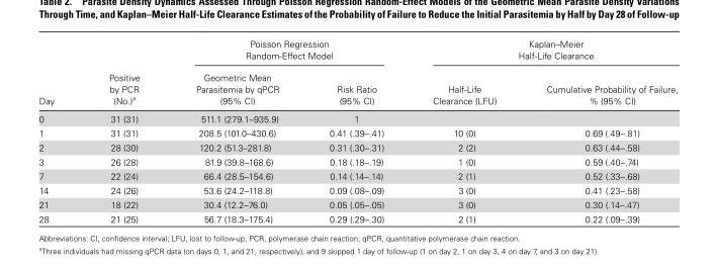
<table><thead><tr><td rowspan="2">Day</td><td rowspan="2">Positive by PCR (No.)<sup>a</sup></td><td colspan="2">Poisson Regression Random-Effect Model</td><td colspan="2">Kaplan–Meier Half-Life Clearance</td></tr><tr><td>Geometric Mean Parasitemia by qPCR (95% CI)</td><td>Risk Ratio (95% CI)</td><td>Half-Life Clearance (LFU)</td><td>Cumulative Probability of Failure, % (95% CI)</td></tr></thead><tbody><tr><td>0</td><td>31 (31)</td><td>511.1 (279.1–935.9)</td><td>1</td><td></td><td></td></tr><tr><td>1</td><td>31 (31)</td><td>208.5 (101.0–430.6)</td><td>0.41 (.39–.41)</td><td>10 (0)</td><td>0.69 (.49–.81)</td></tr><tr><td>2</td><td>28 (30)</td><td>120.2 (51.3–281.8)</td><td>0.31 (.30–.31)</td><td>2 (2)</td><td>0.63 (.44–.58)</td></tr><tr><td>3</td><td>26 (28)</td><td>81.9 (39.8–168.6)</td><td>0.18 (.18–.19)</td><td>1 (0)</td><td>0.59 (.40–.74)</td></tr><tr><td>7</td><td>22 (24)</td><td>66.4 (28.5–154.6)</td><td>0.14 (.14–.14)</td><td>2 (1)</td><td>0.52 (.33–.68)</td></tr><tr><td>14</td><td>24 (26)</td><td>53.6 (24.2–118.8)</td><td>0.09 (.08–.09)</td><td>3 (0)</td><td>0.41 (.23–.58)</td></tr><tr><td>21</td><td>18 (22)</td><td>30.4 (12.2–76.0)</td><td>0.05 (.05–.05)</td><td>3 (0)</td><td>0.30 (.14–.47)</td></tr><tr><td>28</td><td>21 (25)</td><td>56.7 (18.3–175.4)</td><td>0.29 (.29–.30)</td><td>2 (1)</td><td>0.22 (.09–.39)</td></tr></tbody></table>